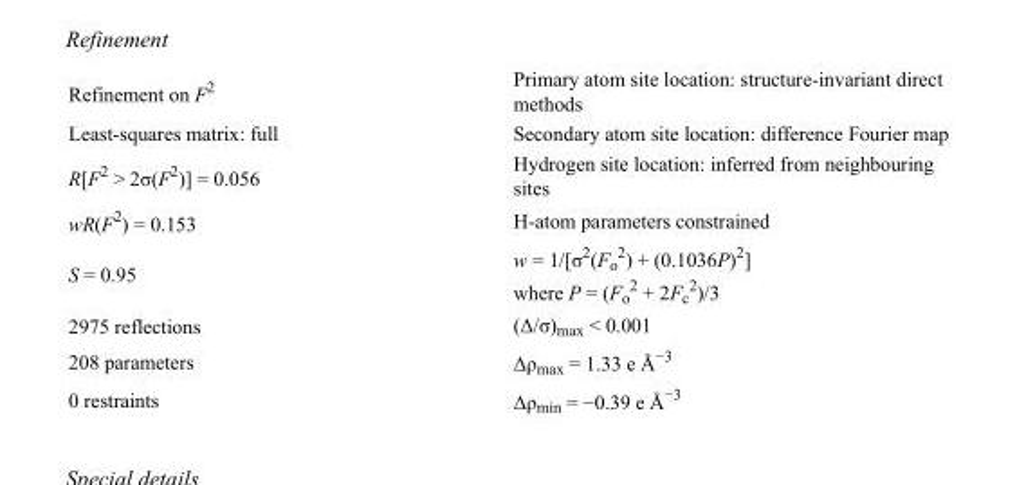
<table><tbody><tr><td>Refinement on F<sup>2</sup></td><td>Primary atom site location: structure-invariant direct methods</td></tr><tr><td>Least-squares matrix: full</td><td>Secondary atom site location: difference Fourier map</td></tr><tr><td>R[F<sup>2</sup> &gt; 2σ(F<sup>2</sup>)] = 0.056</td><td>Hydrogen site location: inferred from neighbouring sites</td></tr><tr><td>wR(F<sup>2</sup>) = 0.153</td><td>H-atom parameters constrained</td></tr><tr><td>S = 0.95</td><td>w = 1/[σ<sup>2</sup>(F<sub>o</sub> <sup>2</sup>) + (0.1036P)<sup>2</sup>] where P = (F<sub>o</sub> <sup>2</sup> + 2F<sub>c</sub> <sup>2</sup>)/3</td></tr><tr><td>2975 reflections</td><td>(Δ/σ)<sub>max</sub> &lt; 0.001</td></tr><tr><td>208 parameters</td><td>Δρ<sub>max</sub> = 1.33 e Å<sup>−3</sup></td></tr><tr><td>0 restraints</td><td>Δρ<sub>min</sub> = −0.39 e Å<sup>−3</sup></td></tr></tbody></table>